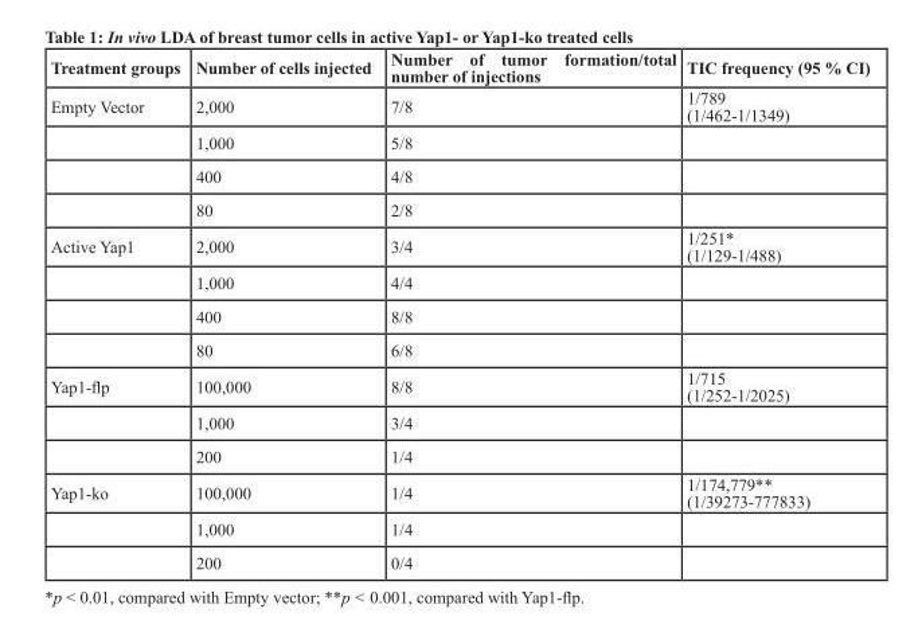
<table><thead><tr><td>Treatment groups</td><td>Number of cells injected</td><td>Number of tumor formation/total number of injections</td><td>TIC frequency (95 % CI)</td></tr></thead><tbody><tr><td rowspan="4">Empty Vector</td><td>2,000</td><td>7/8</td><td>1/789 (1/462-1/1349)</td></tr><tr><td>1,000</td><td>5/8</td><td></td></tr><tr><td>400</td><td>4/8</td><td></td></tr><tr><td>80</td><td>2/8</td><td></td></tr><tr><td rowspan="4">Active Yap1</td><td>2,000</td><td>3/4</td><td>1/251* (1/129-1/488)</td></tr><tr><td>1,000</td><td>4/4</td><td></td></tr><tr><td>400</td><td>8/8</td><td></td></tr><tr><td>80</td><td>6/8</td><td></td></tr><tr><td rowspan="3">Yap1-flp</td><td>100,000</td><td>8/8</td><td>1/715 (1/252-1/2025)</td></tr><tr><td>1,000</td><td>3/4</td><td></td></tr><tr><td>200</td><td>1/4</td><td></td></tr><tr><td rowspan="3">Yap1-ko</td><td>100,000</td><td>1/4</td><td>1/174,779** (1/39273-777833)</td></tr><tr><td>1,000</td><td>1/4</td><td></td></tr><tr><td>200</td><td>0/4</td><td></td></tr></tbody></table>